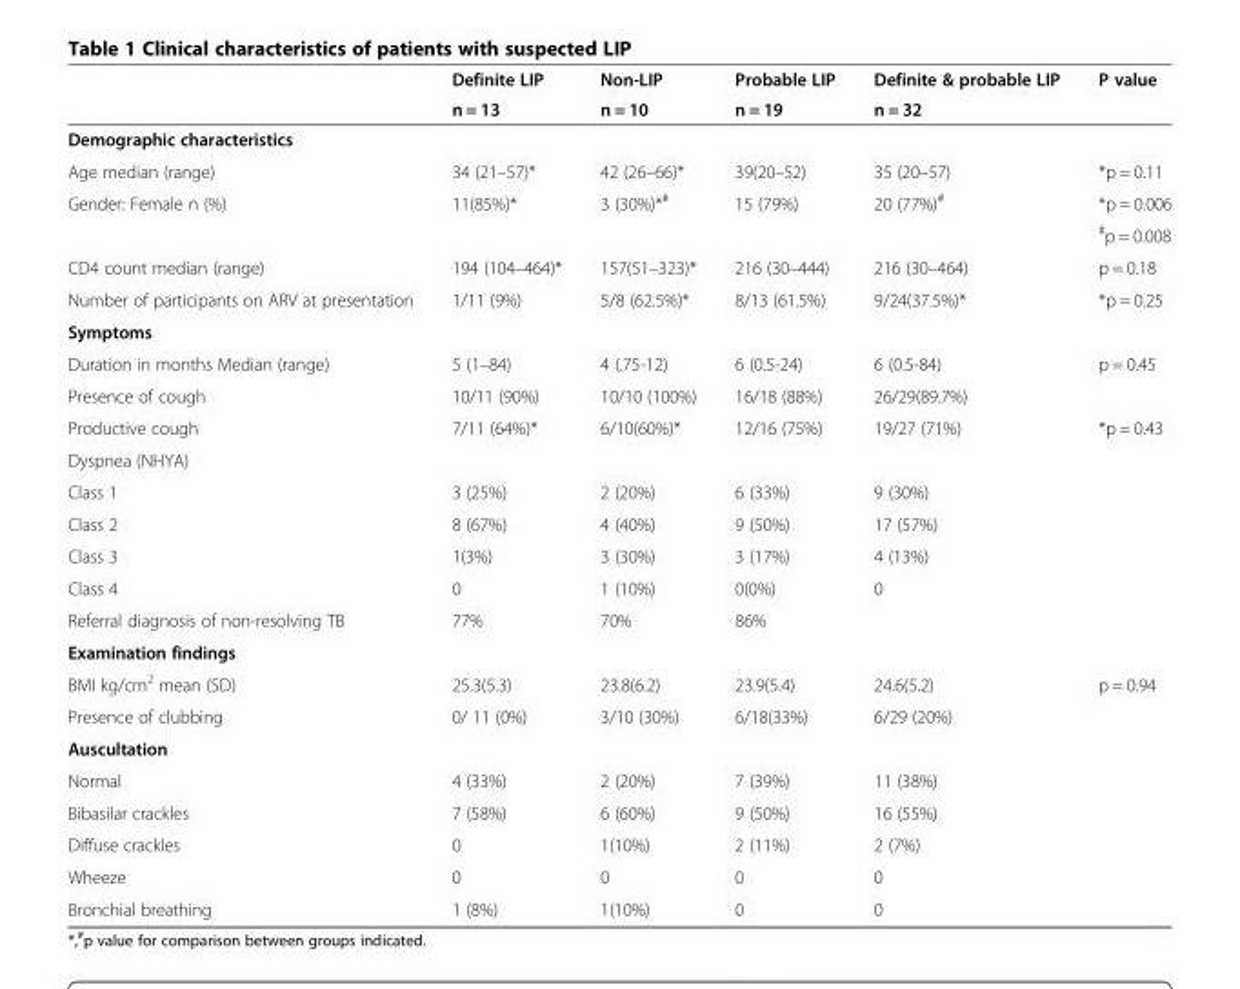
<table><thead><tr><td rowspan="2"></td><td rowspan="2">Definite LIP n = 13</td><td rowspan="2">Non-LIP n = 10</td><td rowspan="2">Probable LIP n = 19</td><td rowspan="2">Definite &amp; probable LIP n = 32</td><td rowspan="2">P value</td></tr><tr></tr></thead><tbody><tr><td colspan="6">Demographic characteristics</td></tr><tr><td>Age median (range)</td><td>34 (21–57)*</td><td>42 (26–66)*</td><td>39(20–52)</td><td>35 (20–57)</td><td>*p = 0.11</td></tr><tr><td rowspan="2">Gender: Female n (%)</td><td rowspan="2">11(85%)*</td><td rowspan="2">3 (30%)*<sup>#</sup></td><td rowspan="2">15 (79%)</td><td rowspan="2">20 (77%)<sup>#</sup></td><td>*p = 0.006</td></tr><tr><td><sup>#</sup>p = 0.008</td></tr><tr><td>CD4 count median (range)</td><td>194 (104–464)*</td><td>157(51–323)*</td><td>216 (30–444)</td><td>216 (30–464)</td><td>p = 0.18</td></tr><tr><td>Number of participants on ARV at presentation</td><td>1/11 (9%)</td><td>5/8 (62.5%)*</td><td>8/13 (61.5%)</td><td>9/24(37.5%)*</td><td>*p = 0.25</td></tr><tr><td colspan="6">Symptoms</td></tr><tr><td>Duration in months Median (range)</td><td>5 (1–84)</td><td>4 (.75-12)</td><td>6 (0.5-24)</td><td>6 (0.5-84)</td><td>p = 0.45</td></tr><tr><td>Presence of cough</td><td>10/11 (90%)</td><td>10/10 (100%)</td><td>16/18 (88%)</td><td>26/29(89.7%)</td><td></td></tr><tr><td>Productive cough</td><td>7/11 (64%)*</td><td>6/10(60%)*</td><td>12/16 (75%)</td><td>19/27 (71%)</td><td>*p = 0.43</td></tr><tr><td colspan="6">Dyspnea (NHYA)</td></tr><tr><td>Class 1</td><td>3 (25%)</td><td>2 (20%)</td><td>6 (33%)</td><td>9 (30%)</td><td></td></tr><tr><td>Class 2</td><td>8 (67%)</td><td>4 (40%)</td><td>9 (50%)</td><td>17 (57%)</td><td></td></tr><tr><td>Class 3</td><td>1(3%)</td><td>3 (30%)</td><td>3 (17%)</td><td>4 (13%)</td><td></td></tr><tr><td>Class 4</td><td>0</td><td>1 (10%)</td><td>0(0%)</td><td>0</td><td></td></tr><tr><td>Referral diagnosis of non-resolving TB</td><td>77%</td><td>70%</td><td>86%</td><td></td><td></td></tr><tr><td colspan="6">Examination findings</td></tr><tr><td>BMI kg/cm<sup>2</sup> mean (SD)</td><td>25.3(5.3)</td><td>23.8(6.2)</td><td>23.9(5.4)</td><td>24.6(5.2)</td><td>p = 0.94</td></tr><tr><td>Presence of clubbing</td><td>0/ 11 (0%)</td><td>3/10 (30%)</td><td>6/18(33%)</td><td>6/29 (20%)</td><td></td></tr><tr><td colspan="6">Auscultation</td></tr><tr><td>Normal</td><td>4 (33%)</td><td>2 (20%)</td><td>7 (39%)</td><td>11 (38%)</td><td></td></tr><tr><td>Bibasilar crackles</td><td>7 (58%)</td><td>6 (60%)</td><td>9 (50%)</td><td>16 (55%)</td><td></td></tr><tr><td>Diffuse crackles</td><td>0</td><td>1(10%)</td><td>2 (11%)</td><td>2 (7%)</td><td></td></tr><tr><td>Wheeze</td><td>0</td><td>0</td><td>0</td><td>0</td><td></td></tr><tr><td>Bronchial breathing</td><td>1 (8%)</td><td>1(10%)</td><td>0</td><td>0</td><td></td></tr></tbody></table>